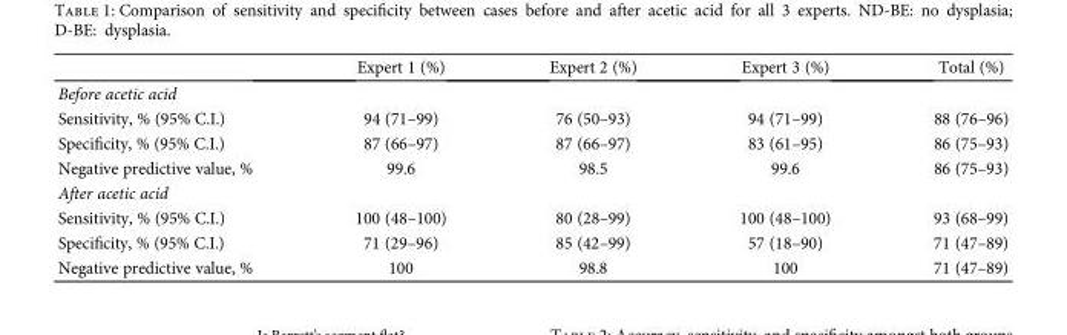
<table><thead><tr><td></td><td>Expert 1 (%)</td><td>Expert 2 (%)</td><td>Expert 3 (%)</td><td>Total (%)</td></tr></thead><tbody><tr><td colspan="5">Before acetic acid</td></tr><tr><td>Sensitivity, % (95% C.I.)</td><td>94 (71–99)</td><td>76 (50–93)</td><td>94 (71–99)</td><td>88 (76–96)</td></tr><tr><td>Specificity, % (95% C.I.)</td><td>87 (66–97)</td><td>87 (66–97)</td><td>83 (61–95)</td><td>86 (75–93)</td></tr><tr><td>Negative predictive value, %</td><td>99.6</td><td>98.5</td><td>99.6</td><td>86 (75–93)</td></tr><tr><td colspan="5">After acetic acid</td></tr><tr><td>Sensitivity, % (95% C.I.)</td><td>100 (48–100)</td><td>80 (28–99)</td><td>100 (48–100)</td><td>93 (68–99)</td></tr><tr><td>Specificity, % (95% C.I.)</td><td>71 (29–96)</td><td>85 (42–99)</td><td>57 (18–90)</td><td>71 (47–89)</td></tr><tr><td>Negative predictive value, %</td><td>100</td><td>98.8</td><td>100</td><td>71 (47–89)</td></tr></tbody></table>